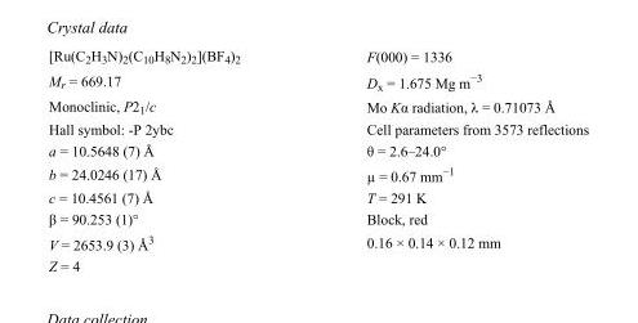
<table><tbody><tr><td>[Ru(C<sub>2</sub>H<sub>3</sub>N)<sub>2</sub>(C<sub>10</sub>H<sub>8</sub>N<sub>2</sub>)<sub>2</sub>](BF<sub>4</sub>)<sub>2</sub></td><td>F(000) = 1336</td></tr><tr><td>M<sub>r</sub> = 669.17</td><td>D<sub>x</sub> = 1.675 Mg m<sup>−3</sup></td></tr><tr><td>Monoclinic, P2<sub>1</sub>/c</td><td>Mo Kα radiation, λ = 0.71073 Å</td></tr><tr><td>Hall symbol: -P 2ybc</td><td>Cell parameters from 3573 reflections</td></tr><tr><td>a = 10.5648 (7) Å</td><td>θ = 2.6–24.0°</td></tr><tr><td>b = 24.0246 (17) Å</td><td>µ = 0.67 mm<sup>−1</sup></td></tr><tr><td>c = 10.4561 (7) Å</td><td>T = 291 K</td></tr><tr><td>β = 90.253 (1)°</td><td>Block, red</td></tr><tr><td>V = 2653.9 (3) Å<sup>3</sup></td><td>0.16 × 0.14 × 0.12 mm</td></tr><tr><td>Z = 4</td><td></td></tr></tbody></table>